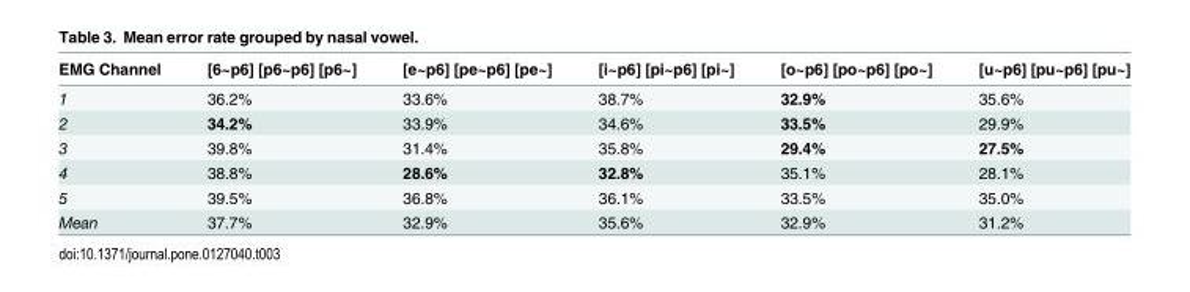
<table><thead><tr><td>EMG Channel</td><td>[6~p6] [p6~p6] [p6~]</td><td>[e~p6] [pe~p6] [pe~]</td><td>[i~p6] [pi~p6] [pi~]</td><td>[o~p6] [po~p6] [po~]</td><td>[u~p6] [pu~p6] [pu~]</td></tr></thead><tbody><tr><td>1</td><td>36.2%</td><td>33.6%</td><td>38.7%</td><td>32.9%</td><td>35.6%</td></tr><tr><td>2</td><td>34.2%</td><td>33.9%</td><td>34.6%</td><td>33.5%</td><td>29.9%</td></tr><tr><td>3</td><td>39.8%</td><td>31.4%</td><td>35.8%</td><td>29.4%</td><td>27.5%</td></tr><tr><td>4</td><td>38.8%</td><td>28.6%</td><td>32.8%</td><td>35.1%</td><td>28.1%</td></tr><tr><td>5</td><td>39.5%</td><td>36.8%</td><td>36.1%</td><td>33.5%</td><td>35.0%</td></tr><tr><td>Mean</td><td>37.7%</td><td>32.9%</td><td>35.6%</td><td>32.9%</td><td>31.2%</td></tr></tbody></table>